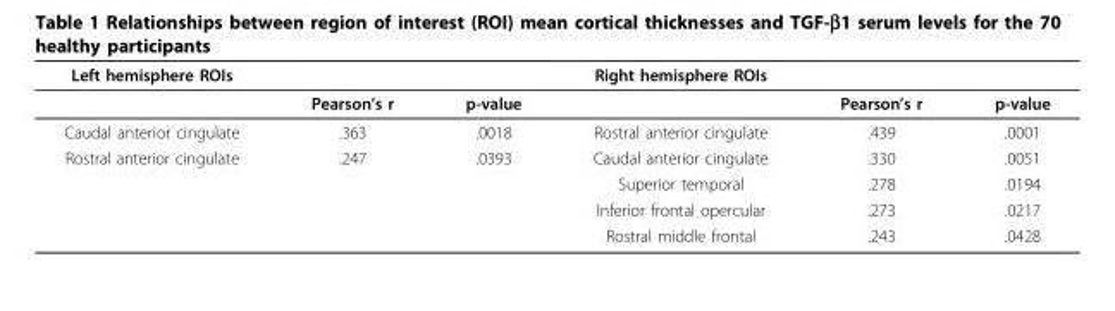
<table><thead><tr><td>Left hemisphere ROIs</td><td></td><td></td><td>Right hemisphere ROIs</td><td></td><td></td></tr></thead><tbody><tr><td></td><td>Pearson’s r</td><td>p-value</td><td></td><td>Pearson’s r</td><td>p-value</td></tr><tr><td>Caudal anterior cingulate</td><td>.363</td><td>.0018</td><td>Rostral anterior cingulate</td><td>.439</td><td>.0001</td></tr><tr><td rowspan="4">Rostral anterior cingulate</td><td>.247</td><td>.0393</td><td>Caudal anterior cingulate</td><td>.330</td><td>.0051</td></tr><tr><td></td><td></td><td>Superior temporal</td><td>.278</td><td>.0194</td></tr><tr><td></td><td></td><td>Inferior frontal opercular</td><td>.273</td><td>.0217</td></tr><tr><td></td><td></td><td>Rostral middle frontal</td><td>.243</td><td>.0428</td></tr></tbody></table>